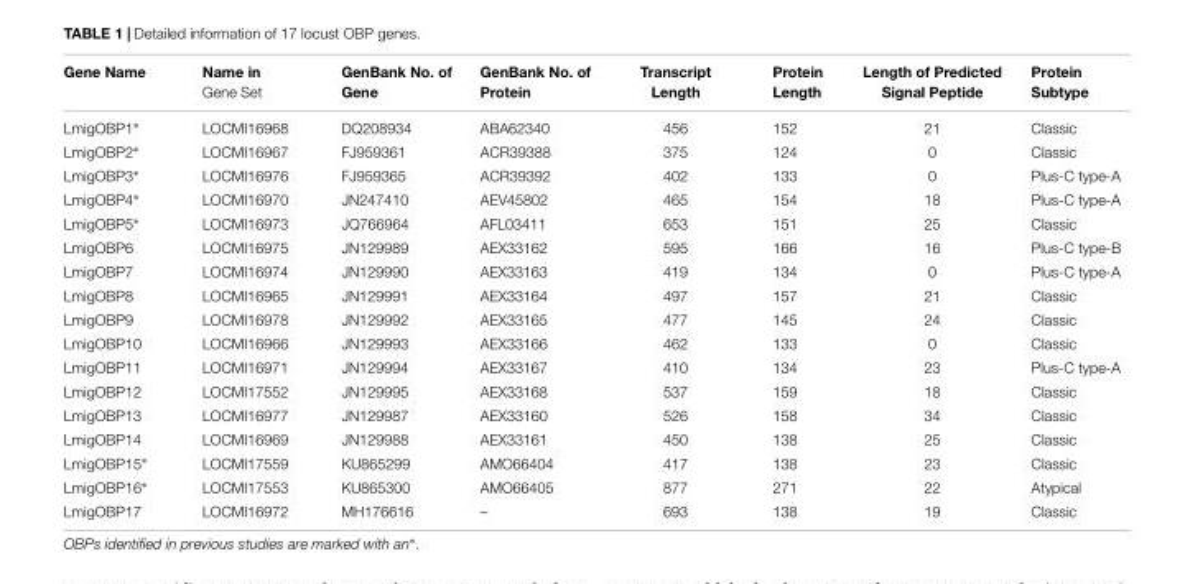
<table><thead><tr><td>Gene Name</td><td>Name in Gene Set</td><td>GenBank No. of Gene</td><td>GenBank No. of Protein</td><td>Transcript Length</td><td>Protein Length</td><td>Length of Predicted Signal Peptide</td><td>Protein Subtype</td></tr></thead><tbody><tr><td>LmigOBP1∗</td><td>LOCMI16968</td><td>DQ208934</td><td>ABA62340</td><td>456</td><td>152</td><td>21</td><td>Classic</td></tr><tr><td>LmigOBP2∗</td><td>LOCMI16967</td><td>FJ959361</td><td>ACR39388</td><td>375</td><td>124</td><td>0</td><td>Classic</td></tr><tr><td>LmigOBP3∗</td><td>LOCMI16976</td><td>FJ959365</td><td>ACR39392</td><td>402</td><td>133</td><td>0</td><td>Plus-C type-A</td></tr><tr><td>LmigOBP4∗</td><td>LOCMI16970</td><td>JN247410</td><td>AEV45802</td><td>465</td><td>154</td><td>18</td><td>Plus-C type-A</td></tr><tr><td>LmigOBP5∗</td><td>LOCMI16973</td><td>JQ766964</td><td>AFL03411</td><td>653</td><td>151</td><td>25</td><td>Classic</td></tr><tr><td>LmigOBP6</td><td>LOCMI16975</td><td>JN129989</td><td>AEX33162</td><td>595</td><td>166</td><td>16</td><td>Plus-C type-B</td></tr><tr><td>LmigOBP7</td><td>LOCMI16974</td><td>JN129990</td><td>AEX33163</td><td>419</td><td>134</td><td>0</td><td>Plus-C type-A</td></tr><tr><td>LmigOBP8</td><td>LOCMI16965</td><td>JN129991</td><td>AEX33164</td><td>497</td><td>157</td><td>21</td><td>Classic</td></tr><tr><td>LmigOBP9</td><td>LOCMI16978</td><td>JN129992</td><td>AEX33165</td><td>477</td><td>145</td><td>24</td><td>Classic</td></tr><tr><td>LmigOBP10</td><td>LOCMI16966</td><td>JN129993</td><td>AEX33166</td><td>462</td><td>133</td><td>0</td><td>Classic</td></tr><tr><td>LmigOBP11</td><td>LOCMI16971</td><td>JN129994</td><td>AEX33167</td><td>410</td><td>134</td><td>23</td><td>Plus-C type-A</td></tr><tr><td>LmigOBP12</td><td>LOCMI17552</td><td>JN129995</td><td>AEX33168</td><td>537</td><td>159</td><td>18</td><td>Classic</td></tr><tr><td>LmigOBP13</td><td>LOCMI16977</td><td>JN129987</td><td>AEX33160</td><td>526</td><td>158</td><td>34</td><td>Classic</td></tr><tr><td>LmigOBP14</td><td>LOCMI16969</td><td>JN129988</td><td>AEX33161</td><td>450</td><td>138</td><td>25</td><td>Classic</td></tr><tr><td>LmigOBP15∗</td><td>LOCMI17559</td><td>KU865299</td><td>AMO66404</td><td>417</td><td>138</td><td>23</td><td>Classic</td></tr><tr><td>LmigOBP16∗</td><td>LOCMI17553</td><td>KU865300</td><td>AMO66405</td><td>877</td><td>271</td><td>22</td><td>Atypical</td></tr><tr><td>LmigOBP17</td><td>LOCMI16972</td><td>MH176616</td><td>–</td><td>693</td><td>138</td><td>19</td><td>Classic</td></tr></tbody></table>